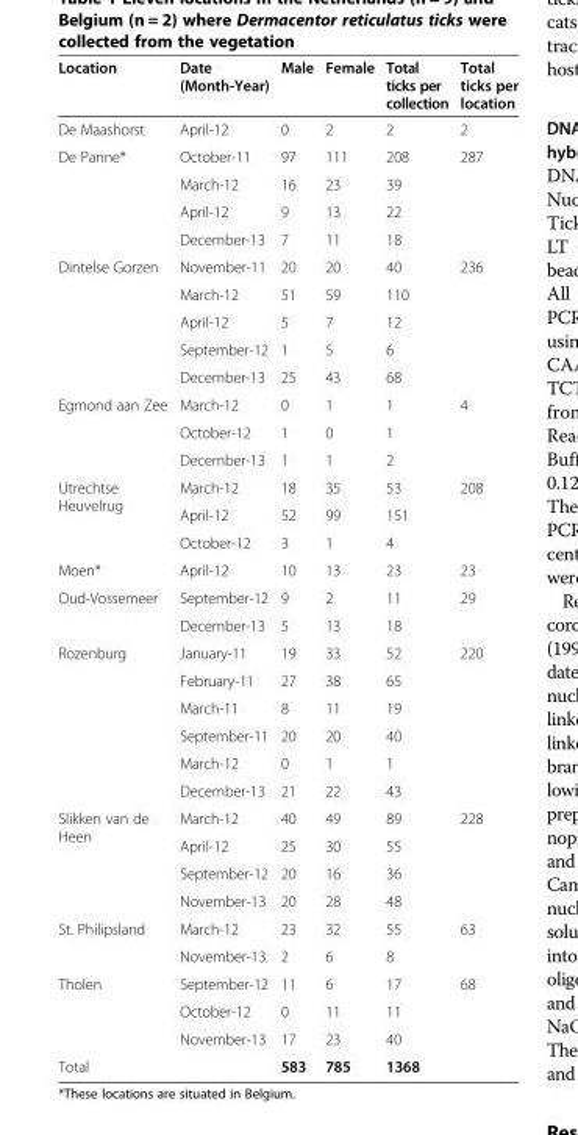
<table><thead><tr><td>Location</td><td>Date (Month-Year)</td><td>Male</td><td>Female</td><td>Total ticks per collection</td><td>Total ticks per location</td></tr></thead><tbody><tr><td>De Maashorst</td><td>April-12</td><td>0</td><td>2</td><td>2</td><td>2</td></tr><tr><td rowspan="4">De Panne*</td><td>October-11</td><td>97</td><td>111</td><td>208</td><td rowspan="4">287</td></tr><tr><td>March-12</td><td>16</td><td>23</td><td>39</td></tr><tr><td>April-12</td><td>9</td><td>13</td><td>22</td></tr><tr><td>December-13</td><td>7</td><td>11</td><td>18</td></tr><tr><td rowspan="5">Dintelse Gorzen</td><td>November-11</td><td>20</td><td>20</td><td>40</td><td rowspan="5">236</td></tr><tr><td>March-12</td><td>51</td><td>59</td><td>110</td></tr><tr><td>April-12</td><td>5</td><td>7</td><td>12</td></tr><tr><td>September-12</td><td>1</td><td>5</td><td>6</td></tr><tr><td>December-13</td><td>25</td><td>43</td><td>68</td></tr><tr><td rowspan="3">Egmond aan Zee</td><td>March-12</td><td>0</td><td>1</td><td>1</td><td rowspan="3">4</td></tr><tr><td>October-12</td><td>1</td><td>0</td><td>1</td></tr><tr><td>December-13</td><td>1</td><td>1</td><td>2</td></tr><tr><td rowspan="3">Utrechtse Heuvelrug</td><td>March-12</td><td>18</td><td>35</td><td>53</td><td rowspan="3">208</td></tr><tr><td>April-12</td><td>52</td><td>99</td><td>151</td></tr><tr><td>October-12</td><td>3</td><td>1</td><td>4</td></tr><tr><td>Moen*</td><td>April-12</td><td>10</td><td>13</td><td>23</td><td>23</td></tr><tr><td rowspan="2">Oud-Vossemeer</td><td>September-12</td><td>9</td><td>2</td><td>11</td><td rowspan="2">29</td></tr><tr><td>December-13</td><td>5</td><td>13</td><td>18</td></tr><tr><td rowspan="6">Rozenburg</td><td>January-11</td><td>19</td><td>33</td><td>52</td><td rowspan="6">220</td></tr><tr><td>February-11</td><td>27</td><td>38</td><td>65</td></tr><tr><td>March-11</td><td>8</td><td>11</td><td>19</td></tr><tr><td>September-11</td><td>20</td><td>20</td><td>40</td></tr><tr><td>March-12</td><td>0</td><td>1</td><td>1</td></tr><tr><td>December-13</td><td>21</td><td>22</td><td>43</td></tr><tr><td rowspan="4">Slikken van de Heen</td><td>March-12</td><td>40</td><td>49</td><td>89</td><td rowspan="4">228</td></tr><tr><td>April-12</td><td>25</td><td>30</td><td>55</td></tr><tr><td>September-12</td><td>20</td><td>16</td><td>36</td></tr><tr><td>November-13</td><td>20</td><td>28</td><td>48</td></tr><tr><td rowspan="2">St. Philipsland</td><td>March-12</td><td>23</td><td>32</td><td>55</td><td rowspan="2">63</td></tr><tr><td>November-13</td><td>2</td><td>6</td><td>8</td></tr><tr><td rowspan="3">Tholen</td><td>September-12</td><td>11</td><td>6</td><td>17</td><td rowspan="3">68</td></tr><tr><td>October-12</td><td>0</td><td>11</td><td>11</td></tr><tr><td>November-13</td><td>17</td><td>23</td><td>40</td></tr><tr><td>Total</td><td></td><td>583</td><td>785</td><td>1368</td><td></td></tr></tbody></table>